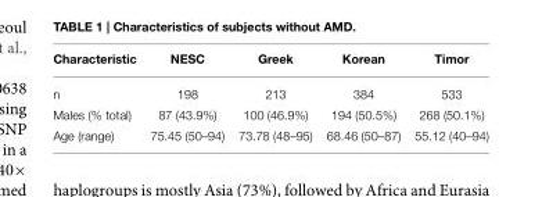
<table><thead><tr><td>Characteristic</td><td>NESC</td><td>Greek</td><td>Korean</td><td>Timor</td></tr></thead><tbody><tr><td>n</td><td>198</td><td>213</td><td>384</td><td>533</td></tr><tr><td>Males (% total)</td><td>87 (43.9%)</td><td>100 (46.9%)</td><td>194 (50.5%)</td><td>268 (50.1%)</td></tr><tr><td>Age (range)</td><td>75.45 (50–94)</td><td>73.78 (48–95)</td><td>68.46 (50–87)</td><td>55.12 (40–94)</td></tr></tbody></table>